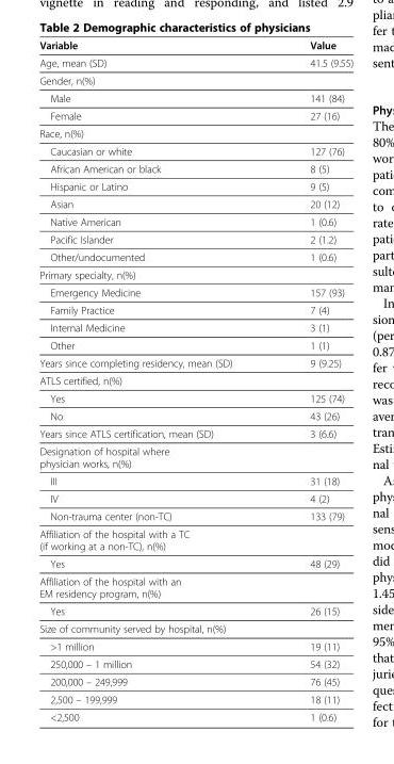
<table><thead><tr><td>Variable</td><td>Value</td></tr></thead><tbody><tr><td>Age, mean (SD)</td><td>41.5 (9.55)</td></tr><tr><td colspan="2">Gender, n(%)</td></tr><tr><td>Male</td><td>141 (84)</td></tr><tr><td>Female</td><td>27 (16)</td></tr><tr><td colspan="2">Race, n(%)</td></tr><tr><td>Caucasian or white</td><td>127 (76)</td></tr><tr><td>African American or black</td><td>8 (5)</td></tr><tr><td>Hispanic or Latino</td><td>9 (5)</td></tr><tr><td>Asian</td><td>20 (12)</td></tr><tr><td>Native American</td><td>1 (0.6)</td></tr><tr><td>Pacific Islander</td><td>2 (1.2)</td></tr><tr><td>Other/undocumented</td><td>1 (0.6)</td></tr><tr><td colspan="2">Primary specialty, n(%)</td></tr><tr><td>Emergency Medicine</td><td>157 (93)</td></tr><tr><td>Family Practice</td><td>7 (4)</td></tr><tr><td>Internal Medicine</td><td>3 (1)</td></tr><tr><td>Other</td><td>1 (1)</td></tr><tr><td>Years since completing residency, mean (SD)</td><td>9 (9.25)</td></tr><tr><td colspan="2">ATLS certified, n(%)</td></tr><tr><td>Yes</td><td>125 (74)</td></tr><tr><td>No</td><td>43 (26)</td></tr><tr><td>Years since ATLS certification, mean (SD)</td><td>3 (6.6)</td></tr><tr><td colspan="2">Designation of hospital where physician works, n(%)</td></tr><tr><td>III</td><td>31 (18)</td></tr><tr><td>IV</td><td>4 (2)</td></tr><tr><td>Non-trauma center (non-TC)</td><td>133 (79)</td></tr><tr><td colspan="2">Affiliation of the hospital with a TC (if working at a non-TC), n(%)</td></tr><tr><td>Yes</td><td>48 (29)</td></tr><tr><td colspan="2">Affiliation of the hospital with an EM residency program, n(%)</td></tr><tr><td>Yes</td><td>26 (15)</td></tr><tr><td colspan="2">Size of community served by hospital, n(%)</td></tr><tr><td>&gt;1 million</td><td>19 (11)</td></tr><tr><td>250,000 – 1 million</td><td>54 (32)</td></tr><tr><td>200,000 – 249,999</td><td>76 (45)</td></tr><tr><td>2,500 – 199,999</td><td>18 (11)</td></tr><tr><td>&lt;2,500</td><td>1 (0.6)</td></tr></tbody></table>